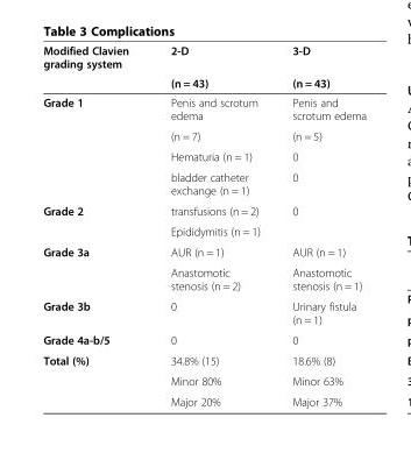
<table><thead><tr><td rowspan="2">Modified Clavien grading system</td><td rowspan="2">2-D (n = 43)</td><td rowspan="2">3-D (n = 43)</td></tr><tr></tr></thead><tbody><tr><td rowspan="4">Grade 1</td><td>Penis and scrotum edema</td><td>Penis and scrotum edema</td></tr><tr><td>(n = 7)</td><td>(n = 5)</td></tr><tr><td>Hematuria (n = 1)</td><td>0</td></tr><tr><td>bladder catheter exchange (n = 1)</td><td>0</td></tr><tr><td rowspan="2">Grade 2</td><td>transfusions (n = 2)</td><td>0</td></tr><tr><td>Epididymitis (n = 1)</td><td></td></tr><tr><td rowspan="2">Grade 3a</td><td>AUR (n = 1)</td><td>AUR (n = 1)</td></tr><tr><td>Anastomotic stenosis (n = 2)</td><td>Anastomotic stenosis (n = 1)</td></tr><tr><td>Grade 3b</td><td>0</td><td>Urinary fistula (n = 1)</td></tr><tr><td>Grade 4a-b/5</td><td>0</td><td>0</td></tr><tr><td rowspan="3">Total (%)</td><td>34.8% (15)</td><td>18.6% (8)</td></tr><tr><td>Minor 80%</td><td>Minor 63%</td></tr><tr><td>Major 20%</td><td>Major 37%</td></tr></tbody></table>